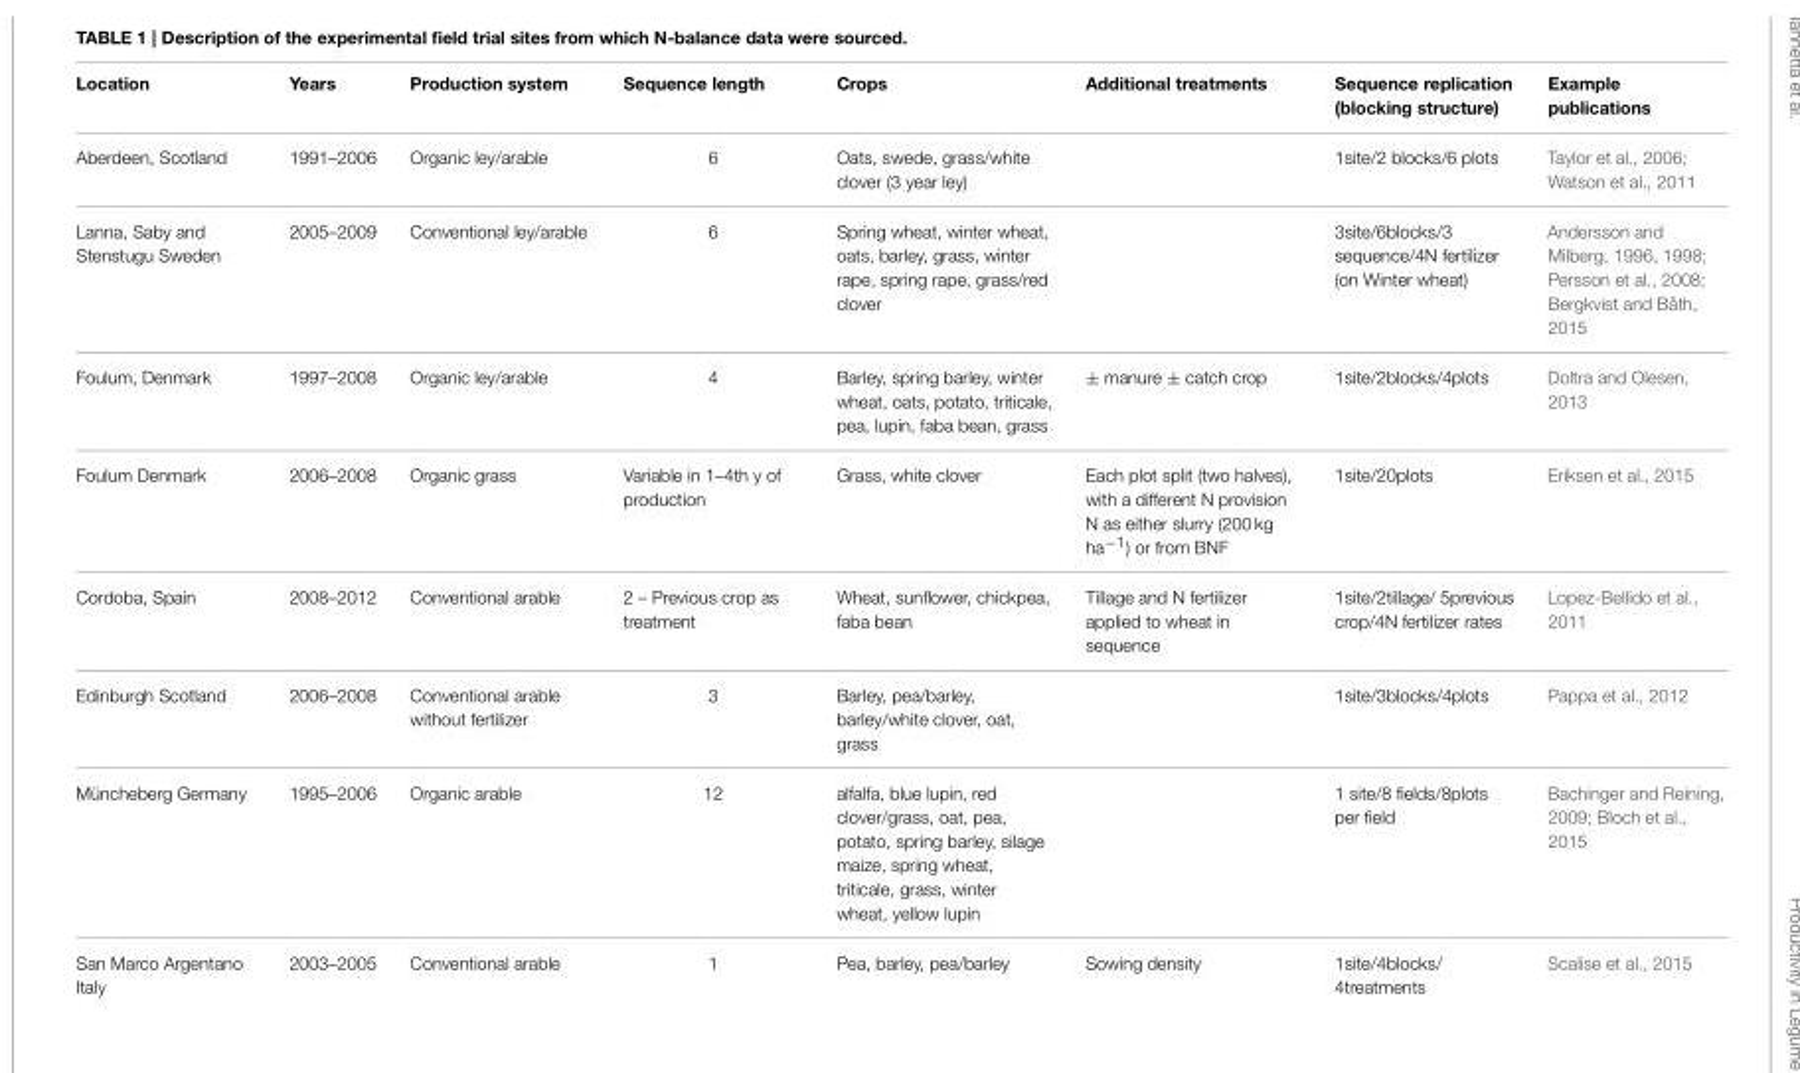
<table><thead><tr><td>Location</td><td>Years</td><td>Production system</td><td>Sequence length</td><td>Crops</td><td>Additional treatments</td><td>Sequence replication (blocking structure)</td><td>Example publications</td></tr></thead><tbody><tr><td>Aberdeen, Scotland</td><td>1991–2006</td><td>Organic ley/arable</td><td>6</td><td>Oats, swede, grass/white clover (3 year ley)</td><td></td><td>1site/2 blocks/6 plots</td><td>Taylor et al., 2006; Watson et al., 2011</td></tr><tr><td>Lanna, Saby and Stenstugu Sweden</td><td>2005–2009</td><td>Conventional ley/arable</td><td>6</td><td>Spring wheat, winter wheat, oats, barley, grass, winter rape, spring rape, grass/red clover</td><td></td><td>3site/6blocks/3 sequence/4N fertilizer (on Winter wheat)</td><td>Andersson and Milberg, 1996, 1998; Persson et al., 2008; Bergkvist and Båth, 2015</td></tr><tr><td>Foulum, Denmark</td><td>1997–2008</td><td>Organic ley/arable</td><td>4</td><td>Barley, spring barley, winter wheat, oats, potato, triticale, pea, lupin, faba bean, grass</td><td>± manure ± catch crop</td><td>1site/2blocks/4plots</td><td>Doltra and Olesen, 2013</td></tr><tr><td>Foulum Denmark</td><td>2006–2008</td><td>Organic grass</td><td>Variable in 1–4th y of production</td><td>Grass, white clover</td><td>Each plot split (two halves), with a different N provision N as either slurry (200 kg ha<sup>−1</sup>) or from BNF</td><td>1site/20plots</td><td>Eriksen et al., 2015</td></tr><tr><td>Cordoba, Spain</td><td>2008–2012</td><td>Conventional arable</td><td>2 – Previous crop as treatment</td><td>Wheat, sunflower, chickpea, faba bean</td><td>Tillage and N fertilizer applied to wheat in sequence</td><td>1site/2tillage/ 5previous crop/4N fertilizer rates</td><td>Lopez-Bellido et al., 2011</td></tr><tr><td>Edinburgh Scotland</td><td>2006–2008</td><td>Conventional arable without fertilizer</td><td>3</td><td>Barley, pea/barley, barley/white clover, oat, grass</td><td></td><td>1site/3blocks/4plots</td><td>Pappa et al., 2012</td></tr><tr><td>Müncheberg Germany</td><td>1995–2006</td><td>Organic arable</td><td>12</td><td>alfalfa, blue lupin, red clover/grass, oat, pea, potato, spring barley, silage maize, spring wheat, triticale, grass, winter wheat, yellow lupin</td><td></td><td>1 site/8 fields/8plots per field</td><td>Bachinger and Reining, 2009; Bloch et al., 2015</td></tr><tr><td>San Marco Argentano Italy</td><td>2003–2005</td><td>Conventional arable</td><td>1</td><td>Pea, barley, pea/barley</td><td>Sowing density</td><td>1site/4blocks/ 4treatments</td><td>Scalise et al., 2015</td></tr></tbody></table>